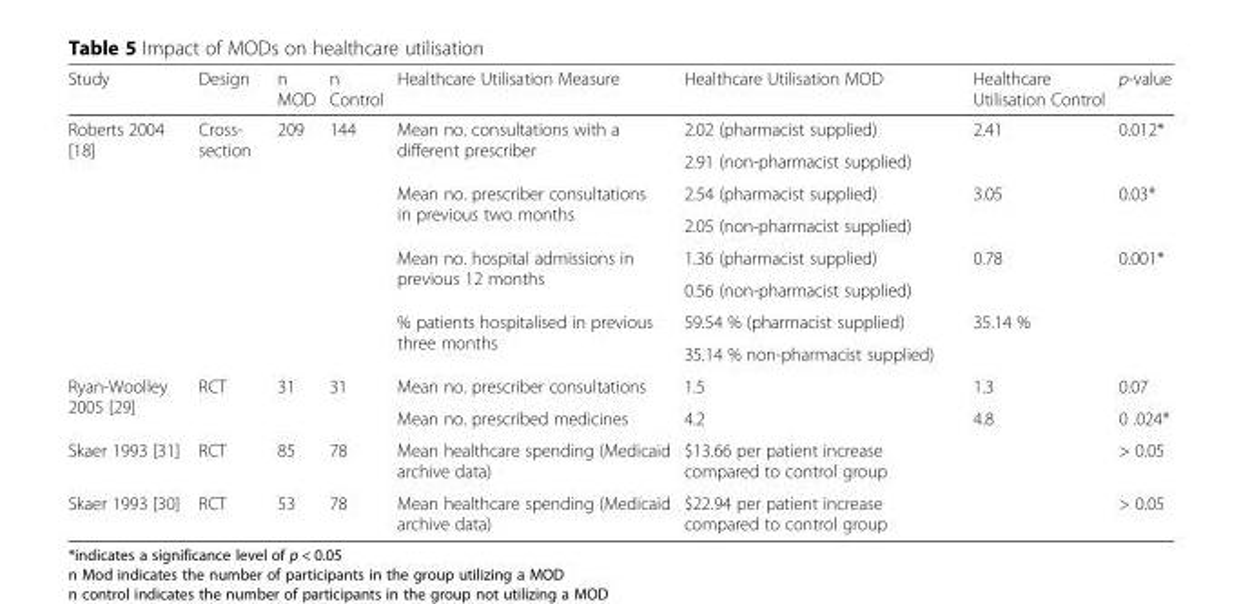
<table><thead><tr><td>Study</td><td>Design</td><td>n MOD</td><td>n Control</td><td>Healthcare Utilisation Measure</td><td>Healthcare Utilisation MOD</td><td>Healthcare Utilisation Control</td><td>p-value</td></tr></thead><tbody><tr><td rowspan="8">Roberts 2004 [18]</td><td rowspan="8">Cross- section</td><td rowspan="8">209</td><td rowspan="8">144</td><td rowspan="2">Mean no. consultations with a different prescriber</td><td>2.02 (pharmacist supplied)</td><td rowspan="2">2.41</td><td rowspan="2">0.012*</td></tr><tr><td>2.91 (non-pharmacist supplied)</td></tr><tr><td rowspan="2">Mean no. prescriber consultations in previous two months</td><td>2.54 (pharmacist supplied)</td><td rowspan="2">3.05</td><td rowspan="2">0.03*</td></tr><tr><td>2.05 (non-pharmacist supplied)</td></tr><tr><td rowspan="2">Mean no. hospital admissions in previous 12 months</td><td>1.36 (pharmacist supplied)</td><td rowspan="2">0.78</td><td rowspan="2">0.001*</td></tr><tr><td>0.56 (non-pharmacist supplied)</td></tr><tr><td rowspan="2">% patients hospitalised in previous three months</td><td>59.54 % (pharmacist supplied)</td><td rowspan="2">35.14 %</td><td rowspan="2"></td></tr><tr><td>35.14 % non-pharmacist supplied)</td></tr><tr><td rowspan="2">Ryan-Woolley 2005 [29]</td><td rowspan="2">RCT</td><td rowspan="2">31</td><td rowspan="2">31</td><td>Mean no. prescriber consultations</td><td>1.5</td><td>1.3</td><td>0.07</td></tr><tr><td>Mean no. prescribed medicines</td><td>4.2</td><td>4.8</td><td>0 .024*</td></tr><tr><td>Skaer 1993 [31]</td><td>RCT</td><td>85</td><td>78</td><td>Mean healthcare spending (Medicaid archive data)</td><td>$13.66 per patient increase compared to control group</td><td></td><td>&gt; 0.05</td></tr><tr><td>Skaer 1993 [30]</td><td>RCT</td><td>53</td><td>78</td><td>Mean healthcare spending (Medicaid archive data)</td><td>$22.94 per patient increase compared to control group</td><td></td><td>&gt; 0.05</td></tr></tbody></table>